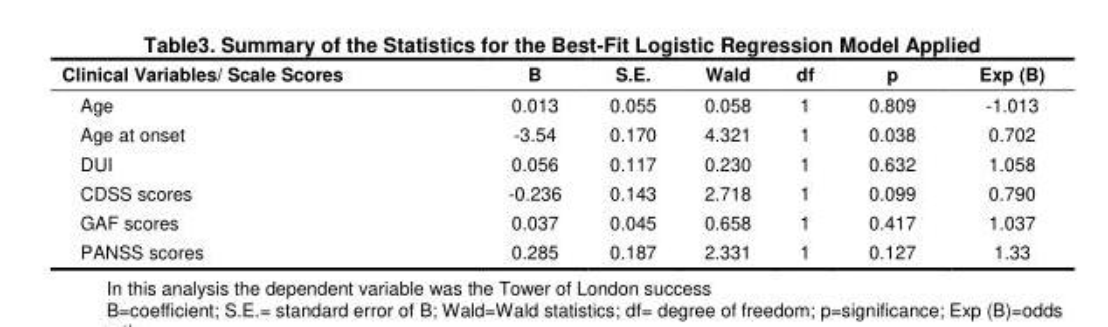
<table><thead><tr><td>Clinical Variables/ Scale Scores</td><td>B</td><td>S.E.</td><td>Wald</td><td>df</td><td>p</td><td>Exp (B)</td></tr></thead><tbody><tr><td>Age</td><td>0.013</td><td>0.055</td><td>0.058</td><td>1</td><td>0.809</td><td>-1.013</td></tr><tr><td>Age at onset</td><td>-3.54</td><td>0.170</td><td>4.321</td><td>1</td><td>0.038</td><td>0.702</td></tr><tr><td>DUI</td><td>0.056</td><td>0.117</td><td>0.230</td><td>1</td><td>0.632</td><td>1.058</td></tr><tr><td>CDSS scores</td><td>-0.236</td><td>0.143</td><td>2.718</td><td>1</td><td>0.099</td><td>0.790</td></tr><tr><td>GAF scores</td><td>0.037</td><td>0.045</td><td>0.658</td><td>1</td><td>0.417</td><td>1.037</td></tr><tr><td>PANSS scores</td><td>0.285</td><td>0.187</td><td>2.331</td><td>1</td><td>0.127</td><td>1.33</td></tr></tbody></table>